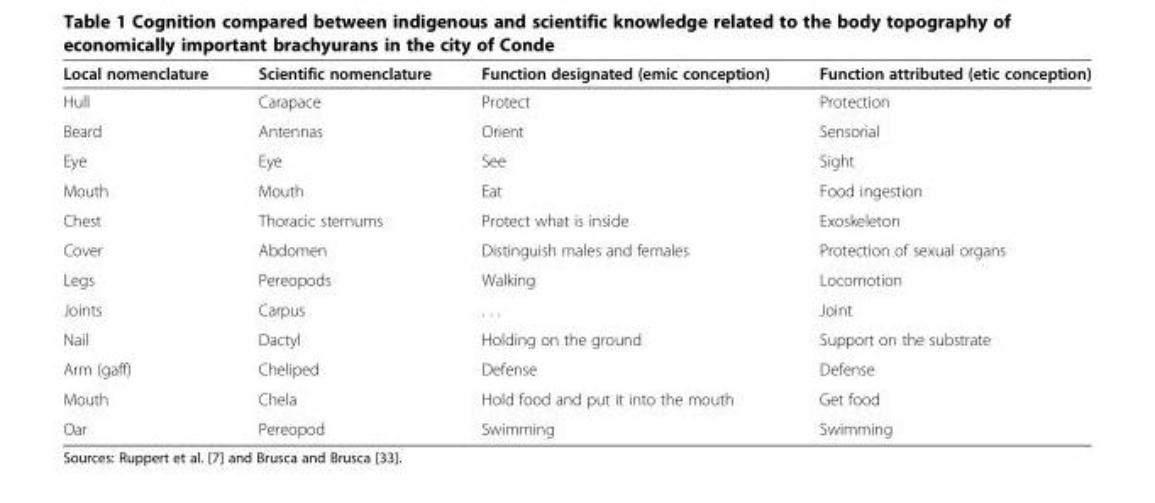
<table><thead><tr><td>Local nomenclature</td><td>Scientific nomenclature</td><td>Function designated (emic conception)</td><td>Function attributed (etic conception)</td></tr></thead><tbody><tr><td>Hull</td><td>Carapace</td><td>Protect</td><td>Protection</td></tr><tr><td>Beard</td><td>Antennas</td><td>Orient</td><td>Sensorial</td></tr><tr><td>Eye</td><td>Eye</td><td>See</td><td>Sight</td></tr><tr><td>Mouth</td><td>Mouth</td><td>Eat</td><td>Food ingestion</td></tr><tr><td>Chest</td><td>Thoracic sternums</td><td>Protect what is inside</td><td>Exoskeleton</td></tr><tr><td>Cover</td><td>Abdomen</td><td>Distinguish males and females</td><td>Protection of sexual organs</td></tr><tr><td>Legs</td><td>Pereopods</td><td>Walking</td><td>Locomotion</td></tr><tr><td>Joints</td><td>Carpus</td><td>. . .</td><td>Joint</td></tr><tr><td>Nail</td><td>Dactyl</td><td>Holding on the ground</td><td>Support on the substrate</td></tr><tr><td>Arm (gaff)</td><td>Cheliped</td><td>Defense</td><td>Defense</td></tr><tr><td>Mouth</td><td>Chela</td><td>Hold food and put it into the mouth</td><td>Get food</td></tr><tr><td>Oar</td><td>Pereopod</td><td>Swimming</td><td>Swimming</td></tr></tbody></table>